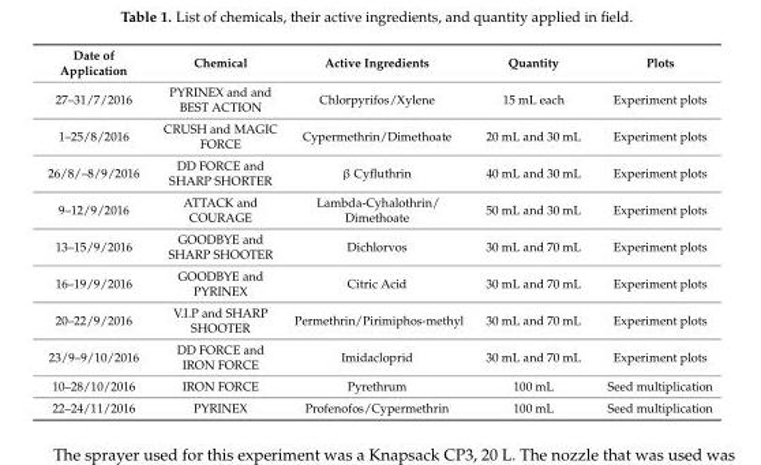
<table><thead><tr><td>Date of Application</td><td>Chemical</td><td>Active Ingredients</td><td>Quantity</td><td>Plots</td></tr></thead><tbody><tr><td>27–31/7/2016</td><td>PYRINEX and and BEST ACTION</td><td>Chlorpyrifos/Xylene</td><td>15 mL each</td><td>Experiment plots</td></tr><tr><td>1–25/8/2016</td><td>CRUSH and MAGIC FORCE</td><td>Cypermethrin/Dimethoate</td><td>20 mL and 30 mL</td><td>Experiment plots</td></tr><tr><td>26/8/–8/9/2016</td><td>DD FORCE and SHARP SHORTER</td><td>β Cyfluthrin</td><td>40 mL and 30 mL</td><td>Experiment plots</td></tr><tr><td>9–12/9/2016</td><td>ATTACK and COURAGE</td><td>Lambda-Cyhalothrin/ Dimethoate</td><td>50 mL and 30 mL</td><td>Experiment plots</td></tr><tr><td>13–15/9/2016</td><td>GOODBYE and SHARP SHOOTER</td><td>Dichlorvos</td><td>30 mL and 70 mL</td><td>Experiment plots</td></tr><tr><td>16–19/9/2016</td><td>GOODBYE and PYRINEX</td><td>Citric Acid</td><td>30 mL and 70 mL</td><td>Experiment plots</td></tr><tr><td>20–22/9/2016</td><td>V.I.P and SHARP SHOOTER</td><td>Permethrin/Pirimiphos-methyl</td><td>30 mL and 70 mL</td><td>Experiment plots</td></tr><tr><td>23/9–9/10/2016</td><td>DD FORCE and IRON FORCE</td><td>Imidacloprid</td><td>30 mL and 70 mL</td><td>Experiment plots</td></tr><tr><td>10–28/10/2016</td><td>IRON FORCE</td><td>Pyrethrum</td><td>100 mL</td><td>Seed multiplication</td></tr><tr><td>22–24/11/2016</td><td>PYRINEX</td><td>Profenofos/Cypermethrin</td><td>100 mL</td><td>Seed multiplication</td></tr></tbody></table>